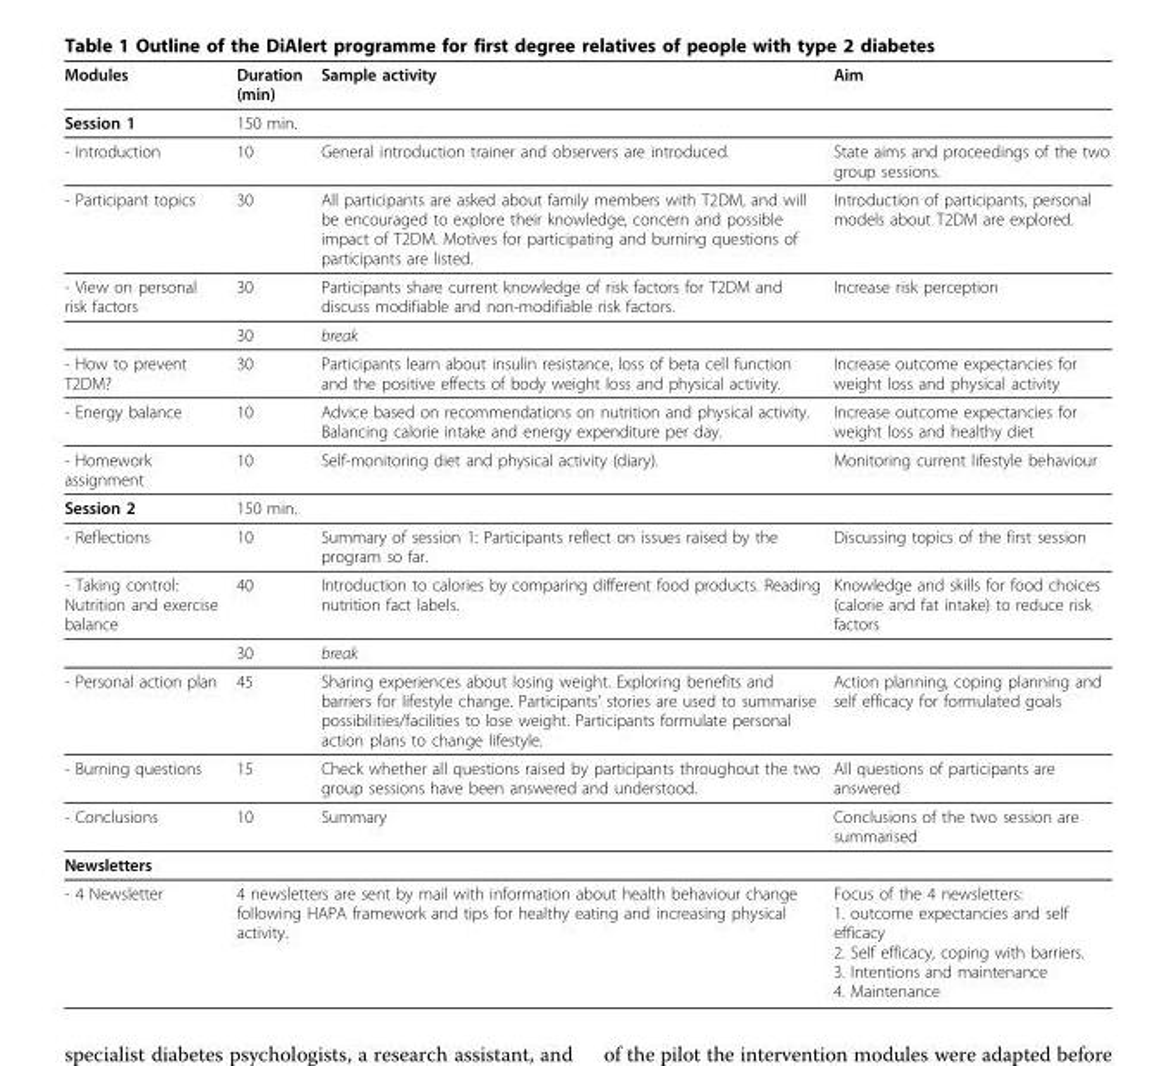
<table><thead><tr><td>Modules</td><td>Duration (min)</td><td>Sample activity</td><td>Aim</td></tr></thead><tbody><tr><td>Session 1</td><td>150 min.</td><td></td><td></td></tr><tr><td>- Introduction</td><td>10</td><td>General introduction trainer and observers are introduced.</td><td>State aims and proceedings of the two group sessions.</td></tr><tr><td>- Participant topics</td><td>30</td><td>All participants are asked about family members with T2DM, and will be encouraged to explore their knowledge, concern and possible impact of T2DM. Motives for participating and burning questions of participants are listed.</td><td>Introduction of participants, personal models about T2DM are explored.</td></tr><tr><td rowspan="2">- View on personal risk factors</td><td>30</td><td>Participants share current knowledge of risk factors for T2DM and discuss modifiable and non-modifiable risk factors.</td><td>Increase risk perception</td></tr><tr><td>30</td><td>break</td><td></td></tr><tr><td>- How to prevent T2DM?</td><td>30</td><td>Participants learn about insulin resistance, loss of beta cell function and the positive effects of body weight loss and physical activity.</td><td>Increase outcome expectancies for weight loss and physical activity</td></tr><tr><td>- Energy balance</td><td>10</td><td>Advice based on recommendations on nutrition and physical activity. Balancing calorie intake and energy expenditure per day.</td><td>Increase outcome expectancies for weight loss and healthy diet</td></tr><tr><td>- Homework assignment</td><td>10</td><td>Self-monitoring diet and physical activity (diary).</td><td>Monitoring current lifestyle behaviour</td></tr><tr><td>Session 2</td><td>150 min.</td><td></td><td></td></tr><tr><td>- Reflections</td><td>10</td><td>Summary of session 1: Participants reflect on issues raised by the program so far.</td><td>Discussing topics of the first session</td></tr><tr><td rowspan="2">- Taking control: Nutrition and exercise balance</td><td>40</td><td>Introduction to calories by comparing different food products. Reading nutrition fact labels.</td><td>Knowledge and skills for food choices (calorie and fat intake) to reduce risk factors</td></tr><tr><td>30</td><td>break</td><td></td></tr><tr><td>- Personal action plan</td><td>45</td><td>Sharing experiences about losing weight. Exploring benefits and barriers for lifestyle change. Participants’ stories are used to summarise possibilities/facilities to lose weight. Participants formulate personal action plans to change lifestyle.</td><td>Action planning, coping planning and self efficacy for formulated goals</td></tr><tr><td>- Burning questions</td><td>15</td><td>Check whether all questions raised by participants throughout the two group sessions have been answered and understood.</td><td>All questions of participants are answered</td></tr><tr><td>- Conclusions</td><td>10</td><td>Summary</td><td>Conclusions of the two session are summarised</td></tr><tr><td colspan="4">Newsletters</td></tr><tr><td>- 4 Newsletter</td><td colspan="2">4 newsletters are sent by mail with information about health behaviour change following HAPA framework and tips for healthy eating and increasing physical activity.</td><td>Focus of the 4 newsletters: 1. outcome expectancies and self efficacy 2. Self efficacy, coping with barriers. 3. Intentions and maintenance 4. Maintenance</td></tr></tbody></table>